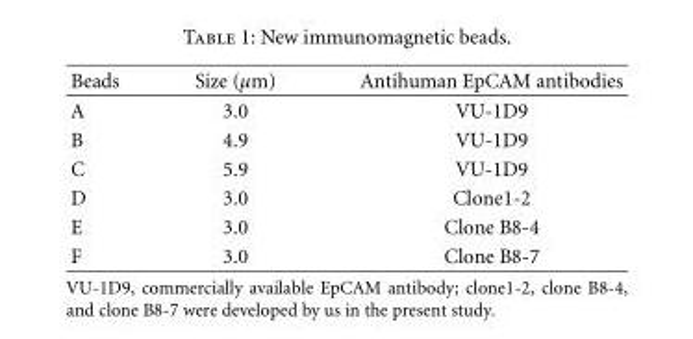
<table><thead><tr><td>Beads</td><td>Size (μm)</td><td>Antihuman EpCAM antibodies</td></tr></thead><tbody><tr><td>A</td><td>3.0</td><td>VU-1D9</td></tr><tr><td>B</td><td>4.9</td><td>VU-1D9</td></tr><tr><td>C</td><td>5.9</td><td>VU-1D9</td></tr><tr><td>D</td><td>3.0</td><td>Clone1-2</td></tr><tr><td>E</td><td>3.0</td><td>Clone B8-4</td></tr><tr><td>F</td><td>3.0</td><td>Clone B8-7</td></tr></tbody></table>